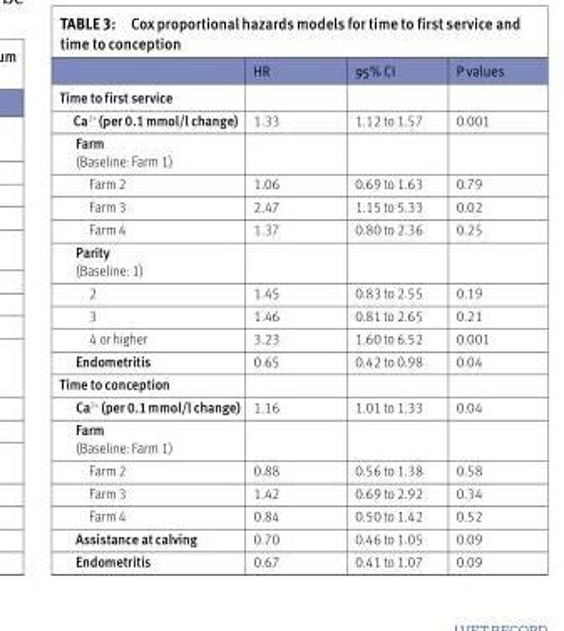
<table><thead><tr><td></td><td>HR</td><td>95% CI</td><td>P values</td></tr></thead><tbody><tr><td colspan="4">Time to first service</td></tr><tr><td>Ca<sup>2+</sup> (per 0.1 mmol/l change)</td><td>1.33</td><td>1.12 to 1.57</td><td>0.001</td></tr><tr><td colspan="4">Farm (Baseline: Farm 1)</td></tr><tr><td>Farm 2</td><td>1.06</td><td>0.69 to 1.63</td><td>0.79</td></tr><tr><td>Farm 3</td><td>2.47</td><td>1.15 to 5.33</td><td>0.02</td></tr><tr><td>Farm 4</td><td>1.37</td><td>0.80 to 2.36</td><td>0.25</td></tr><tr><td colspan="4">Parity (Baseline: 1)</td></tr><tr><td>2</td><td>1.45</td><td>0.83 to 2.55</td><td>0.19</td></tr><tr><td>3</td><td>1.46</td><td>0.81 to 2.65</td><td>0.21</td></tr><tr><td>4 or higher</td><td>3.23</td><td>1.60 to 6.52</td><td>0.001</td></tr><tr><td>Endometritis</td><td>0.65</td><td>0.42 to 0.98</td><td>0.04</td></tr><tr><td colspan="4">Time to conception</td></tr><tr><td>Ca<sup>2+</sup> (per 0.1 mmol/l change)</td><td>1.16</td><td>1.01 to 1.33</td><td>0.04</td></tr><tr><td colspan="4">Farm (Baseline: Farm 1)</td></tr><tr><td>Farm 2</td><td>0.88</td><td>0.56 to 1.38</td><td>0.58</td></tr><tr><td>Farm 3</td><td>1.42</td><td>0.69 to 2.92</td><td>0.34</td></tr><tr><td>Farm 4</td><td>0.84</td><td>0.50 to 1.42</td><td>0.52</td></tr><tr><td>Assistance at calving</td><td>0.70</td><td>0.46 to 1.05</td><td>0.09</td></tr><tr><td>Endometritis</td><td>0.67</td><td>0.41 to 1.07</td><td>0.09</td></tr></tbody></table>